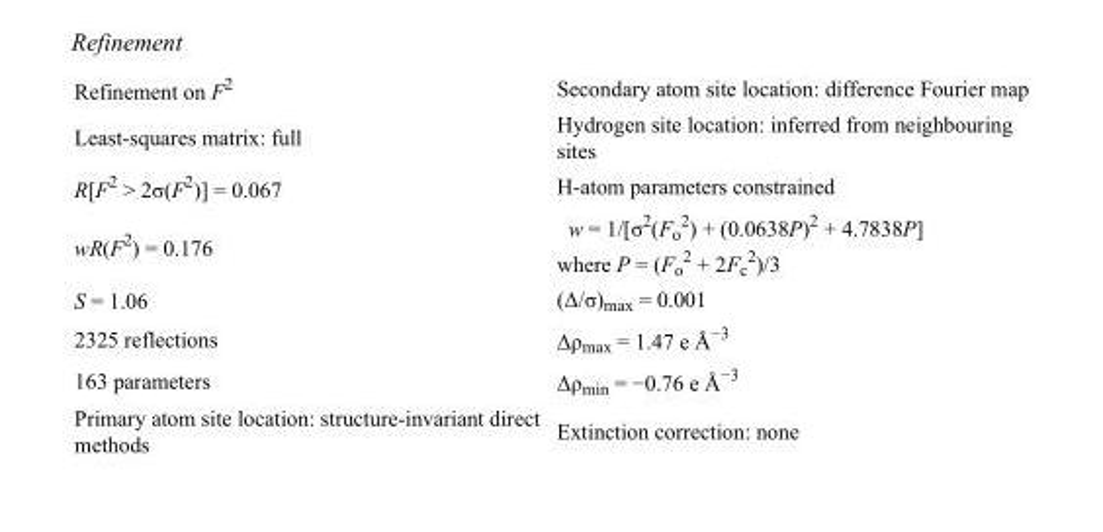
<table><tbody><tr><td>Refinement on F<sup>2</sup></td><td>Secondary atom site location: difference Fourier map</td></tr><tr><td>Least-squares matrix: full</td><td>Hydrogen site location: inferred from neighbouring sites</td></tr><tr><td>R[F<sup>2</sup> &gt; 2σ(F<sup>2</sup>)] = 0.067</td><td>H-atom parameters constrained</td></tr><tr><td>wR(F<sup>2</sup>) = 0.176</td><td>w = 1/[σ<sup>2</sup>(F<sub>o</sub> <sup>2</sup>) + (0.0638P)<sup>2</sup> + 4.7838P] where P = (F<sub>o</sub> <sup>2</sup> + 2F<sub>c</sub> <sup>2</sup>)/3</td></tr><tr><td>S = 1.06</td><td>(Δ/σ)<sub>max</sub> = 0.001</td></tr><tr><td>2325 reflections</td><td>Δρ<sub>max</sub> = 1.47 e Å<sup>−3</sup></td></tr><tr><td>163 parameters</td><td>Δρ<sub>min</sub> = −0.76 e Å<sup>−3</sup></td></tr><tr><td>Primary atom site location: structure-invariant direct methods</td><td>Extinction correction: none</td></tr></tbody></table>